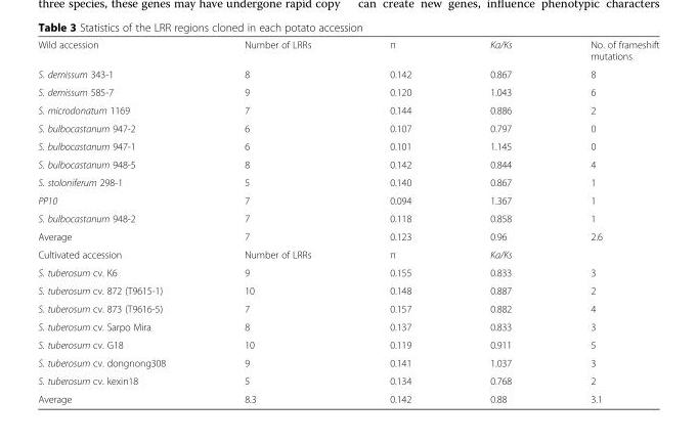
<table><tbody><tr><td>Wild accession</td><td>Number of LRRs</td><td>π</td><td>Ka/Ks</td><td>No. of frameshift mutations</td></tr><tr><td>S. demissum 343-1</td><td>8</td><td>0.142</td><td>0.867</td><td>8</td></tr><tr><td>S. demissum 585-7</td><td>9</td><td>0.120</td><td>1.043</td><td>6</td></tr><tr><td>S. microdonatum 1169</td><td>7</td><td>0.144</td><td>0.886</td><td>2</td></tr><tr><td>S. bulbocastanum 947-2</td><td>6</td><td>0.107</td><td>0.797</td><td>0</td></tr><tr><td>S. bulbocastanum 947-1</td><td>6</td><td>0.101</td><td>1.145</td><td>0</td></tr><tr><td>S. bulbocastanum 948-5</td><td>8</td><td>0.142</td><td>0.844</td><td>4</td></tr><tr><td>S. stoloniferum 298-1</td><td>5</td><td>0.140</td><td>0.867</td><td>1</td></tr><tr><td>PP10</td><td>7</td><td>0.094</td><td>1.367</td><td>1</td></tr><tr><td>S. bulbocastanum 948-2</td><td>7</td><td>0.118</td><td>0.858</td><td>1</td></tr><tr><td>Average</td><td>7</td><td>0.123</td><td>0.96</td><td>2.6</td></tr><tr><td>Cultivated accession</td><td>Number of LRRs</td><td>π</td><td>Ka/Ks</td><td></td></tr><tr><td>S. tuberosum cv. K6</td><td>9</td><td>0.155</td><td>0.833</td><td>3</td></tr><tr><td>S. tuberosum cv. 872 (T9615-1)</td><td>10</td><td>0.148</td><td>0.887</td><td>2</td></tr><tr><td>S. tuberosum cv. 873 (T9616-5)</td><td>7</td><td>0.157</td><td>0.882</td><td>4</td></tr><tr><td>S. tuberosum cv. Sarpo Mira</td><td>8</td><td>0.137</td><td>0.833</td><td>3</td></tr><tr><td>S. tuberosum cv. G18</td><td>10</td><td>0.119</td><td>0.911</td><td>5</td></tr><tr><td>S. tuberosum cv. dongnong308</td><td>9</td><td>0.141</td><td>1.037</td><td>3</td></tr><tr><td>S. tuberosum cv. kexin18</td><td>5</td><td>0.134</td><td>0.768</td><td>2</td></tr><tr><td>Average</td><td>8.3</td><td>0.142</td><td>0.88</td><td>3.1</td></tr></tbody></table>